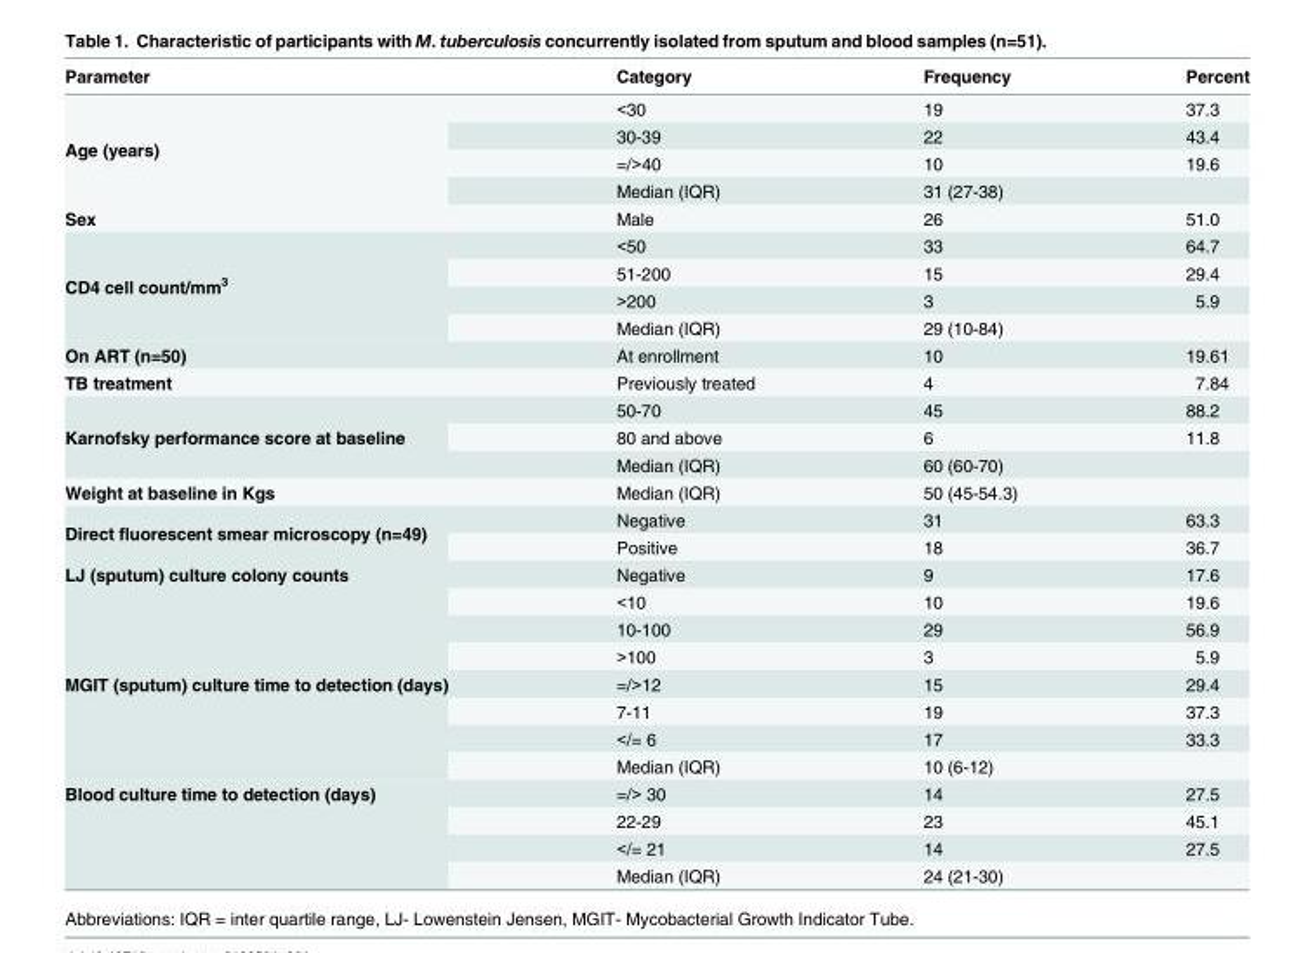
<table><thead><tr><td>Parameter</td><td>Category</td><td>Frequency</td><td>Percent</td></tr></thead><tbody><tr><td rowspan="4">Age (years)</td><td>&lt;30</td><td>19</td><td>37.3</td></tr><tr><td>30-39</td><td>22</td><td>43.4</td></tr><tr><td>=/&gt;40</td><td>10</td><td>19.6</td></tr><tr><td>Median (IQR)</td><td>31 (27-38)</td><td></td></tr><tr><td>Sex</td><td>Male</td><td>26</td><td>51.0</td></tr><tr><td rowspan="4">CD4 cell count/mm<sup>3</sup></td><td>&lt;50</td><td>33</td><td>64.7</td></tr><tr><td>51-200</td><td>15</td><td>29.4</td></tr><tr><td>&gt;200</td><td>3</td><td>5.9</td></tr><tr><td>Median (IQR)</td><td>29 (10-84)</td><td></td></tr><tr><td>On ART (n=50)</td><td>At enrollment</td><td>10</td><td>19.61</td></tr><tr><td>TB treatment</td><td>Previously treated</td><td>4</td><td>7.84</td></tr><tr><td rowspan="3">Karnofsky performance score at baseline</td><td>50-70</td><td>45</td><td>88.2</td></tr><tr><td>80 and above</td><td>6</td><td>11.8</td></tr><tr><td>Median (IQR)</td><td>60 (60-70)</td><td></td></tr><tr><td>Weight at baseline in Kgs</td><td>Median (IQR)</td><td>50 (45-54.3)</td><td></td></tr><tr><td rowspan="2">Direct fluorescent smear microscopy (n=49)</td><td>Negative</td><td>31</td><td>63.3</td></tr><tr><td>Positive</td><td>18</td><td>36.7</td></tr><tr><td rowspan="4">LJ (sputum) culture colony counts</td><td>Negative</td><td>9</td><td>17.6</td></tr><tr><td>&lt;10</td><td>10</td><td>19.6</td></tr><tr><td>10-100</td><td>29</td><td>56.9</td></tr><tr><td>&gt;100</td><td>3</td><td>5.9</td></tr><tr><td rowspan="4">MGIT (sputum) culture time to detection (days)</td><td>=/&gt;12</td><td>15</td><td>29.4</td></tr><tr><td>7-11</td><td>19</td><td>37.3</td></tr><tr><td>&lt;/= 6</td><td>17</td><td>33.3</td></tr><tr><td>Median (IQR)</td><td>10 (6-12)</td><td></td></tr><tr><td rowspan="4">Blood culture time to detection (days)</td><td>=/&gt; 30</td><td>14</td><td>27.5</td></tr><tr><td>22-29</td><td>23</td><td>45.1</td></tr><tr><td>&lt;/= 21</td><td>14</td><td>27.5</td></tr><tr><td>Median (IQR)</td><td>24 (21-30)</td><td></td></tr></tbody></table>